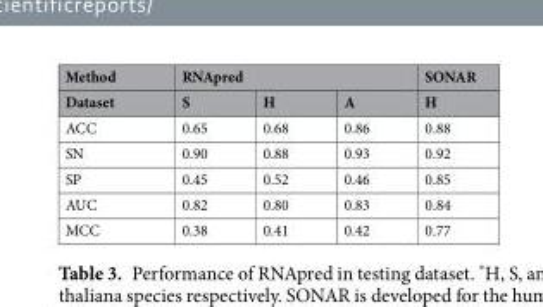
<table><thead><tr><td rowspan="2">Method Dataset</td><td colspan="3">RNApred</td><td rowspan="2">SONAR H</td></tr><tr><td>S</td><td>H</td><td>A</td></tr></thead><tbody><tr><td>ACC</td><td>0.65</td><td>0.68</td><td>0.86</td><td>0.88</td></tr><tr><td>SN</td><td>0.90</td><td>0.88</td><td>0.93</td><td>0.92</td></tr><tr><td>SP</td><td>0.45</td><td>0.52</td><td>0.46</td><td>0.85</td></tr><tr><td>AUC</td><td>0.82</td><td>0.80</td><td>0.83</td><td>0.84</td></tr><tr><td>MCC</td><td>0.38</td><td>0.41</td><td>0.42</td><td>0.77</td></tr></tbody></table>